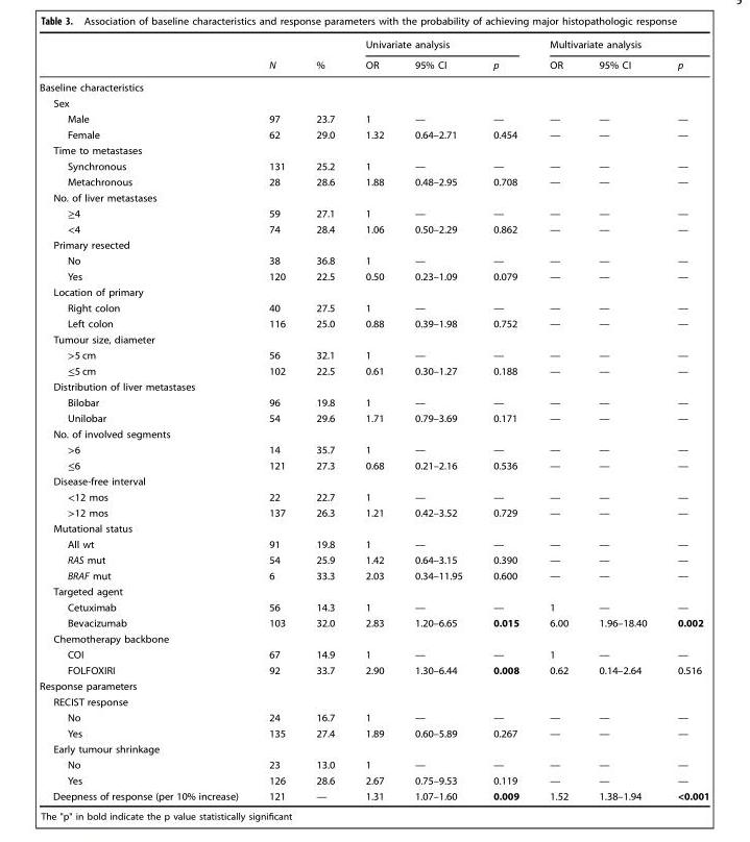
<table><thead><tr><td rowspan="2"></td><td rowspan="2">N</td><td rowspan="2">%</td><td colspan="3">Univariate analysis</td><td colspan="3">Multivariate analysis</td></tr><tr><td>OR</td><td>95% CI</td><td>p</td><td>OR</td><td>95% CI</td><td>p</td></tr></thead><tbody><tr><td colspan="9">Baseline characteristics</td></tr><tr><td colspan="9">Sex</td></tr><tr><td>Male</td><td>97</td><td>23.7</td><td>1</td><td>—</td><td>—</td><td>—</td><td>—</td><td>—</td></tr><tr><td>Female</td><td>62</td><td>29.0</td><td>1.32</td><td>0.64–2.71</td><td>0.454</td><td>—</td><td>—</td><td>—</td></tr><tr><td colspan="9">Time to metastases</td></tr><tr><td>Synchronous</td><td>131</td><td>25.2</td><td>1</td><td>—</td><td>—</td><td>—</td><td>—</td><td>—</td></tr><tr><td>Metachronous</td><td>28</td><td>28.6</td><td>1.88</td><td>0.48–2.95</td><td>0.708</td><td>—</td><td>—</td><td>—</td></tr><tr><td colspan="9">No. of liver metastases</td></tr><tr><td>≥4</td><td>59</td><td>27.1</td><td>1</td><td>—</td><td>—</td><td>—</td><td>—</td><td>—</td></tr><tr><td>&lt;4</td><td>74</td><td>28.4</td><td>1.06</td><td>0.50–2.29</td><td>0.862</td><td>—</td><td>—</td><td>—</td></tr><tr><td colspan="9">Primary resected</td></tr><tr><td>No</td><td>38</td><td>36.8</td><td>1</td><td>—</td><td>—</td><td>—</td><td>—</td><td>—</td></tr><tr><td>Yes</td><td>120</td><td>22.5</td><td>0.50</td><td>0.23–1.09</td><td>0.079</td><td>—</td><td>—</td><td>—</td></tr><tr><td colspan="9">Location of primary</td></tr><tr><td>Right colon</td><td>40</td><td>27.5</td><td>1</td><td>—</td><td>—</td><td>—</td><td>—</td><td>—</td></tr><tr><td>Left colon</td><td>116</td><td>25.0</td><td>0.88</td><td>0.39–1.98</td><td>0.752</td><td>—</td><td>—</td><td>—</td></tr><tr><td colspan="9">Tumour size, diameter</td></tr><tr><td>&gt;5 cm</td><td>56</td><td>32.1</td><td>1</td><td>—</td><td>—</td><td>—</td><td>—</td><td>—</td></tr><tr><td>≤5 cm</td><td>102</td><td>22.5</td><td>0.61</td><td>0.30–1.27</td><td>0.188</td><td>—</td><td>—</td><td>—</td></tr><tr><td colspan="9">Distribution of liver metastases</td></tr><tr><td>Bilobar</td><td>96</td><td>19.8</td><td>1</td><td>—</td><td>—</td><td>—</td><td>—</td><td>—</td></tr><tr><td>Unilobar</td><td>54</td><td>29.6</td><td>1.71</td><td>0.79–3.69</td><td>0.171</td><td>—</td><td>—</td><td>—</td></tr><tr><td colspan="9">No. of involved segments</td></tr><tr><td>&gt;6</td><td>14</td><td>35.7</td><td>1</td><td>—</td><td>—</td><td>—</td><td>—</td><td>—</td></tr><tr><td>≤6</td><td>121</td><td>27.3</td><td>0.68</td><td>0.21–2.16</td><td>0.536</td><td>—</td><td>—</td><td>—</td></tr><tr><td colspan="9">Disease-free interval</td></tr><tr><td>&lt;12 mos</td><td>22</td><td>22.7</td><td>1</td><td>—</td><td>—</td><td>—</td><td>—</td><td>—</td></tr><tr><td>&gt;12 mos</td><td>137</td><td>26.3</td><td>1.21</td><td>0.42–3.52</td><td>0.729</td><td>—</td><td>—</td><td>—</td></tr><tr><td colspan="9">Mutational status</td></tr><tr><td>All wt</td><td>91</td><td>19.8</td><td>1</td><td>—</td><td>—</td><td>—</td><td>—</td><td>—</td></tr><tr><td>RAS mut</td><td>54</td><td>25.9</td><td>1.42</td><td>0.64–3.15</td><td>0.390</td><td>—</td><td>—</td><td>—</td></tr><tr><td>BRAF mut</td><td>6</td><td>33.3</td><td>2.03</td><td>0.34–11.95</td><td>0.600</td><td>—</td><td>—</td><td>—</td></tr><tr><td colspan="9">Targeted agent</td></tr><tr><td>Cetuximab</td><td>56</td><td>14.3</td><td>1</td><td>—</td><td>—</td><td>1</td><td>—</td><td>—</td></tr><tr><td>Bevacizumab</td><td>103</td><td>32.0</td><td>2.83</td><td>1.20–6.65</td><td>0.015</td><td>6.00</td><td>1.96–18.40</td><td>0.002</td></tr><tr><td colspan="9">Chemotherapy backbone</td></tr><tr><td>COI</td><td>67</td><td>14.9</td><td>1</td><td>—</td><td>—</td><td>1</td><td>—</td><td>—</td></tr><tr><td>FOLFOXIRI</td><td>92</td><td>33.7</td><td>2.90</td><td>1.30–6.44</td><td>0.008</td><td>0.62</td><td>0.14–2.64</td><td>0.516</td></tr><tr><td colspan="9">Response parameters</td></tr><tr><td colspan="9">RECIST response</td></tr><tr><td>No</td><td>24</td><td>16.7</td><td>1</td><td>—</td><td>—</td><td>—</td><td>—</td><td>—</td></tr><tr><td>Yes</td><td>135</td><td>27.4</td><td>1.89</td><td>0.60–5.89</td><td>0.267</td><td>—</td><td>—</td><td>—</td></tr><tr><td colspan="9">Early tumour shrinkage</td></tr><tr><td>No</td><td>23</td><td>13.0</td><td>1</td><td>—</td><td>—</td><td>—</td><td>—</td><td>—</td></tr><tr><td>Yes</td><td>126</td><td>28.6</td><td>2.67</td><td>0.75–9.53</td><td>0.119</td><td>—</td><td>—</td><td>—</td></tr><tr><td>Deepness of response (per 10% increase)</td><td>121</td><td>—</td><td>1.31</td><td>1.07–1.60</td><td>0.009</td><td>1.52</td><td>1.38–1.94</td><td>&lt;0.001</td></tr></tbody></table>